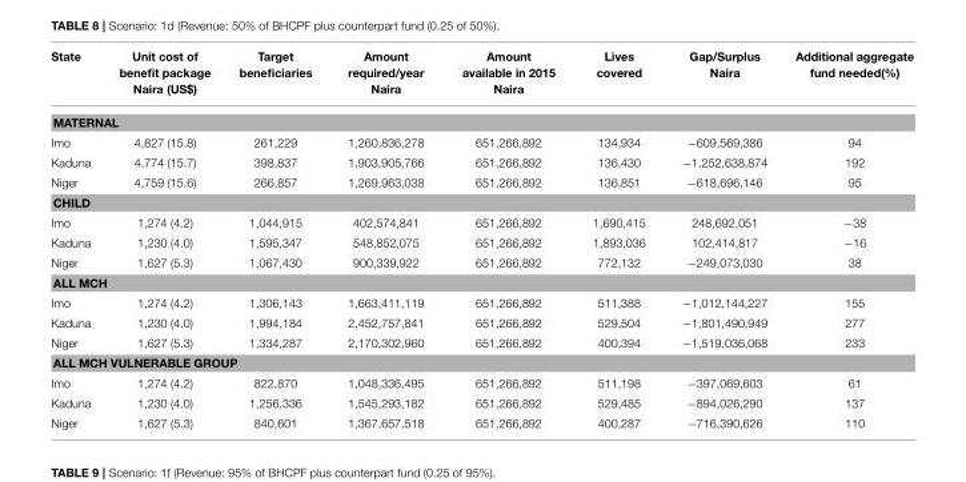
<table><thead><tr><td>State</td><td>Unit cost of benefit package Naira (US$)</td><td>Target beneficiaries</td><td>Amount required/year Naira</td><td>Amount available in 2015 Naira</td><td>Lives covered</td><td>Gap/Surplus Naira</td><td>Additional aggregate fund needed(%)</td></tr></thead><tbody><tr><td colspan="8">MATERNAL</td></tr><tr><td>Imo</td><td>4,827 (15.8)</td><td>261,229</td><td>1,260,836,278</td><td>651,266,892</td><td>134,934</td><td>−609,569,386</td><td>94</td></tr><tr><td>Kaduna</td><td>4,774 (15.7)</td><td>398,837</td><td>1,903,905,766</td><td>651,266,892</td><td>136,430</td><td>−1,252,638,874</td><td>192</td></tr><tr><td>Niger</td><td>4,759 (15.6)</td><td>266,857</td><td>1,269,963,038</td><td>651,266,892</td><td>136,851</td><td>−618,696,146</td><td>95</td></tr><tr><td colspan="8">CHILD</td></tr><tr><td>Imo</td><td>1,274 (4.2)</td><td>1,044,915</td><td>402,574,841</td><td>651,266,892</td><td>1,690,415</td><td>248,692,051</td><td>−38</td></tr><tr><td>Kaduna</td><td>1,230 (4.0)</td><td>1,595,347</td><td>548,852,075</td><td>651,266,892</td><td>1,893,036</td><td>102,414,817</td><td>−16</td></tr><tr><td>Niger</td><td>1,627 (5.3)</td><td>1,067,430</td><td>900,339,922</td><td>651,266,892</td><td>772,132</td><td>−249,073,030</td><td>38</td></tr><tr><td colspan="8">ALL MCH</td></tr><tr><td>Imo</td><td>1,274 (4.2)</td><td>1,306,143</td><td>1,663,411,119</td><td>651,266,892</td><td>511,388</td><td>−1,012,144,227</td><td>155</td></tr><tr><td>Kaduna</td><td>1,230 (4.0)</td><td>1,994,184</td><td>2,452,757,841</td><td>651,266,892</td><td>529,504</td><td>−1,801,490,949</td><td>277</td></tr><tr><td>Niger</td><td>1,627 (5.3)</td><td>1,334,287</td><td>2,170,302,960</td><td>651,266,892</td><td>400,394</td><td>−1,519,036,068</td><td>233</td></tr><tr><td colspan="8">ALL MCH VULNERABLE GROUP</td></tr><tr><td>Imo</td><td>1,274 (4.2)</td><td>822,870</td><td>1,048,336,495</td><td>651,266,892</td><td>511,198</td><td>−397,069,603</td><td>61</td></tr><tr><td>Kaduna</td><td>1,230 (4.0)</td><td>1,256,336</td><td>1,545,293,182</td><td>651,266,892</td><td>529,485</td><td>−894,026,290</td><td>137</td></tr><tr><td>Niger</td><td>1,627 (5.3)</td><td>840,601</td><td>1,367,657,518</td><td>651,266,892</td><td>400,287</td><td>−716,390,626</td><td>110</td></tr></tbody></table>